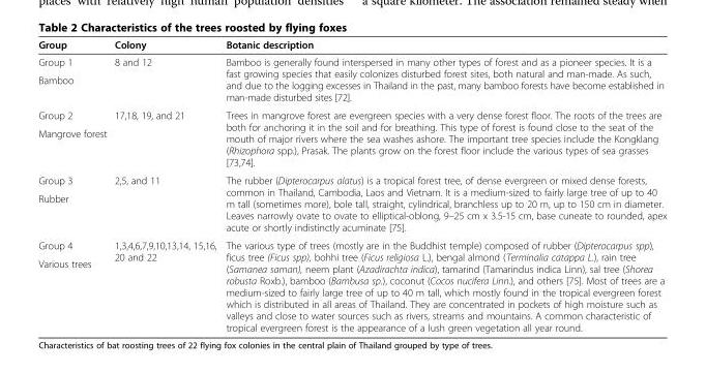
<table><thead><tr><td>Group</td><td>Colony</td><td>Botanic description</td></tr></thead><tbody><tr><td>Group 1</td><td rowspan="2">8 and 12</td><td rowspan="2">Bamboo is generally found interspersed in many other types of forest and as a pioneer species. It is a fast growing species that easily colonizes disturbed forest sites, both natural and man-made. As such, and due to the logging excesses in Thailand in the past, many bamboo forests have become established in man-made disturbed sites [72].</td></tr><tr><td>Bamboo</td></tr><tr><td>Group 2</td><td rowspan="2">17,18, 19, and 21</td><td rowspan="2">Trees in mangrove forest are evergreen species with a very dense forest floor. The roots of the trees are both for anchoring it in the soil and for breathing. This type of forest is found close to the seat of the mouth of major rivers where the sea washes ashore. The important tree species include the Kongklang (Rhizophora spp.), Prasak. The plants grow on the forest floor include the various types of sea grasses [73,74].</td></tr><tr><td>Mangrove forest</td></tr><tr><td>Group 3</td><td rowspan="2">2,5, and 11</td><td rowspan="2">The rubber (Dipterocarpus alatus) is a tropical forest tree, of dense evergreen or mixed dense forests, common in Thailand, Cambodia, Laos and Vietnam. It is a medium-sized to fairly large tree of up to 40 m tall (sometimes more), bole tall, straight, cylindrical, branchless up to 20 m, up to 150 cm in diameter. Leaves narrowly ovate to ovate to elliptical-oblong, 9–25 cm x 3.5-15 cm, base cuneate to rounded, apex acute or shortly indistinctly acuminate [75].</td></tr><tr><td>Rubber</td></tr><tr><td>Group 4</td><td rowspan="2">1,3,4,6,7,9,10,13,14, 15,16, 20 and 22</td><td rowspan="2">The various type of trees (mostly are in the Buddhist temple) composed of rubber (Dipterocarpus spp), ficus tree (Ficus spp), bohhi tree (Ficus religiosa L.), bengal almond (Terminalia catappa L.), rain tree (Samanea saman), neem plant (Azadirachta indica), tamarind (Tamarindus indica Linn), sal tree (Shorea robusta Roxb.), bamboo (Bambusa sp.), coconut (Cocos nucifera Linn.), and others [75]. Most of trees are a medium-sized to fairly large tree of up to 40 m tall, which mostly found in the tropical evergreen forest which is distributed in all areas of Thailand. They are concentrated in pockets of high moisture such as valleys and close to water sources such as rivers, streams and mountains. A common characteristic of tropical evergreen forest is the appearance of a lush green vegetation all year round.</td></tr><tr><td>Various trees</td></tr></tbody></table>